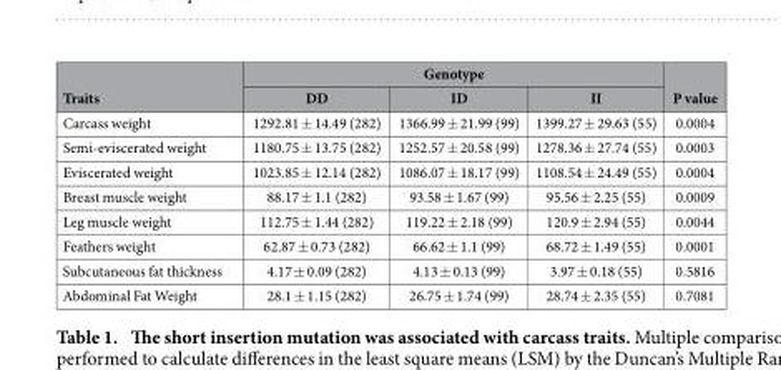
<table><thead><tr><td rowspan="2">Traits</td><td colspan="3">Genotype</td><td rowspan="2">P value</td></tr><tr><td>DD</td><td>ID</td><td>II</td></tr></thead><tbody><tr><td>Carcass weight</td><td>1292.81 ± 14.49 (282)</td><td>1366.99 ± 21.99 (99)</td><td>1399.27 ± 29.63 (55)</td><td>0.0004</td></tr><tr><td>Semi-eviscerated weight</td><td>1180.75 ± 13.75 (282)</td><td>1252.57 ± 20.58 (99)</td><td>1278.36 ± 27.74 (55)</td><td>0.0003</td></tr><tr><td>Eviscerated weight</td><td>1023.85 ± 12.14 (282)</td><td>1086.07 ± 18.17 (99)</td><td>1108.54 ± 24.49 (55)</td><td>0.0004</td></tr><tr><td>Breast muscle weight</td><td>88.17 ± 1.1 (282)</td><td>93.58 ± 1.67 (99)</td><td>95.56 ± 2.25 (55)</td><td>0.0009</td></tr><tr><td>Leg muscle weight</td><td>112.75 ± 1.44 (282)</td><td>119.22 ± 2.18 (99)</td><td>120.9 ± 2.94 (55)</td><td>0.0044</td></tr><tr><td>Feathers weight</td><td>62.87 ± 0.73 (282)</td><td>66.62 ± 1.1 (99)</td><td>68.72 ± 1.49 (55)</td><td>0.0001</td></tr><tr><td>Subcutaneous fat thickness</td><td>4.17 ± 0.09 (282)</td><td>4.13 ± 0.13 (99)</td><td>3.97 ± 0.18 (55)</td><td>0.5816</td></tr><tr><td>Abdominal Fat Weight</td><td>28.1 ± 1.15 (282)</td><td>26.75 ± 1.74 (99)</td><td>28.74 ± 2.35 (55)</td><td>0.7081</td></tr></tbody></table>